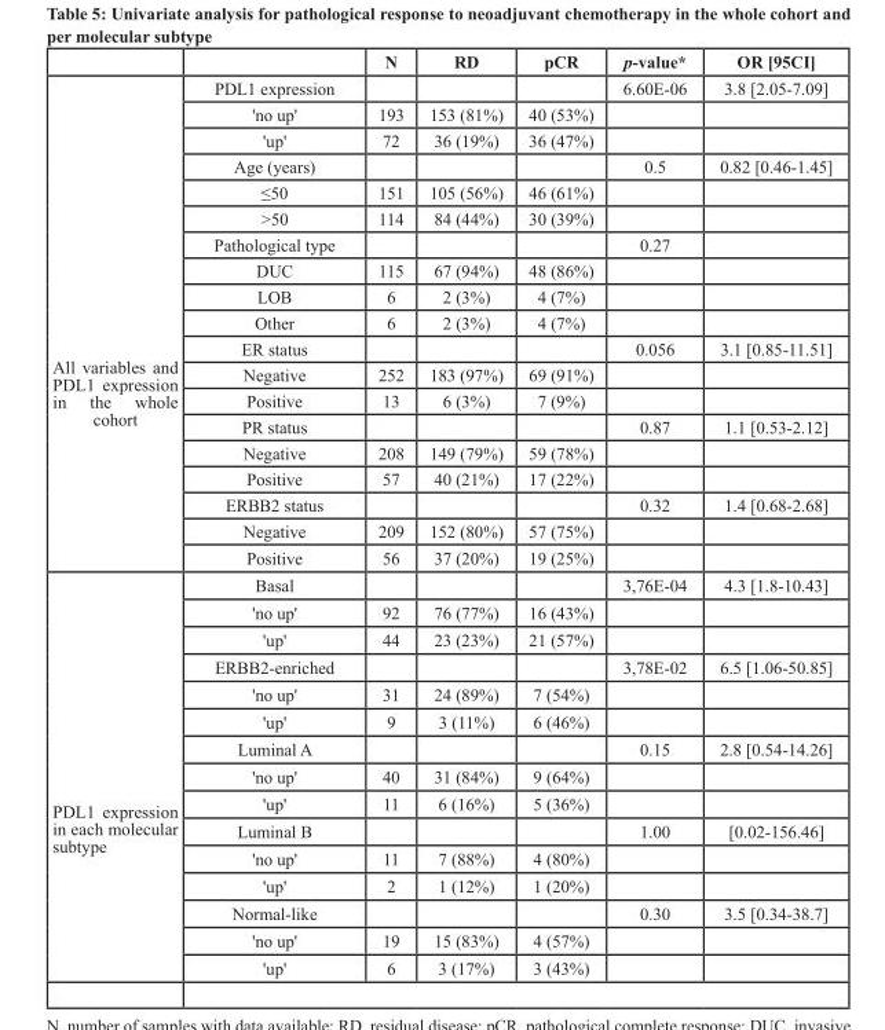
<table><thead><tr><td></td><td></td><td>N</td><td>RD</td><td>pCR</td><td>p-value*</td><td>OR [95CI]</td></tr></thead><tbody><tr><td rowspan="19">All variables and PDL1 expression in the whole cohort</td><td>PDL1 expression</td><td></td><td></td><td></td><td>6.60E-06</td><td>3.8 [2.05-7.09]</td></tr><tr><td>&#x27;no up&#x27;</td><td>193</td><td>153 (81%)</td><td>40 (53%)</td><td></td><td></td></tr><tr><td>&#x27;up&#x27;</td><td>72</td><td>36 (19%)</td><td>36 (47%)</td><td></td><td></td></tr><tr><td>Age (years)</td><td></td><td></td><td></td><td>0.5</td><td>0.82 [0.46-1.45]</td></tr><tr><td>≤50</td><td>151</td><td>105 (56%)</td><td>46 (61%)</td><td></td><td></td></tr><tr><td>&gt;50</td><td>114</td><td>84 (44%)</td><td>30 (39%)</td><td></td><td></td></tr><tr><td>Pathological type</td><td></td><td></td><td></td><td>0.27</td><td></td></tr><tr><td>DUC</td><td>115</td><td>67 (94%)</td><td>48 (86%)</td><td></td><td></td></tr><tr><td>LOB</td><td>6</td><td>2 (3%)</td><td>4 (7%)</td><td></td><td></td></tr><tr><td>Other</td><td>6</td><td>2 (3%)</td><td>4 (7%)</td><td></td><td></td></tr><tr><td>ER status</td><td></td><td></td><td></td><td>0.056</td><td>3.1 [0.85-11.51]</td></tr><tr><td>Negative</td><td>252</td><td>183 (97%)</td><td>69 (91%)</td><td></td><td></td></tr><tr><td>Positive</td><td>13</td><td>6 (3%)</td><td>7 (9%)</td><td></td><td></td></tr><tr><td>PR status</td><td></td><td></td><td></td><td>0.87</td><td>1.1 [0.53-2.12]</td></tr><tr><td>Negative</td><td>208</td><td>149 (79%)</td><td>59 (78%)</td><td></td><td></td></tr><tr><td>Positive</td><td>57</td><td>40 (21%)</td><td>17 (22%)</td><td></td><td></td></tr><tr><td>ERBB2 status</td><td></td><td></td><td></td><td>0.32</td><td>1.4 [0.68-2.68]</td></tr><tr><td>Negative</td><td>209</td><td>152 (80%)</td><td>57 (75%)</td><td></td><td></td></tr><tr><td>Positive</td><td>56</td><td>37 (20%)</td><td>19 (25%)</td><td></td><td></td></tr><tr><td rowspan="15">PDL1 expression in each molecular subtype</td><td>Basal</td><td></td><td></td><td></td><td>3,76E-04</td><td>4.3 [1.8-10.43]</td></tr><tr><td>&#x27;no up&#x27;</td><td>92</td><td>76 (77%)</td><td>16 (43%)</td><td></td><td></td></tr><tr><td>&#x27;up&#x27;</td><td>44</td><td>23 (23%)</td><td>21 (57%)</td><td></td><td></td></tr><tr><td>ERBB2-enriched</td><td></td><td></td><td></td><td>3,78E-02</td><td>6.5 [1.06-50.85]</td></tr><tr><td>&#x27;no up&#x27;</td><td>31</td><td>24 (89%)</td><td>7 (54%)</td><td></td><td></td></tr><tr><td>&#x27;up&#x27;</td><td>9</td><td>3 (11%)</td><td>6 (46%)</td><td></td><td></td></tr><tr><td>Luminal A</td><td></td><td></td><td></td><td>0.15</td><td>2.8 [0.54-14.26]</td></tr><tr><td>&#x27;no up&#x27;</td><td>40</td><td>31 (84%)</td><td>9 (64%)</td><td></td><td></td></tr><tr><td>&#x27;up&#x27;</td><td>11</td><td>6 (16%)</td><td>5 (36%)</td><td></td><td></td></tr><tr><td>Luminal B</td><td></td><td></td><td></td><td>1.00</td><td>[0.02-156.46]</td></tr><tr><td>&#x27;no up&#x27;</td><td>11</td><td>7 (88%)</td><td>4 (80%)</td><td></td><td></td></tr><tr><td>&#x27;up&#x27;</td><td>2</td><td>1 (12%)</td><td>1 (20%)</td><td></td><td></td></tr><tr><td>Normal-like</td><td></td><td></td><td></td><td>0.30</td><td>3.5 [0.34-38.7]</td></tr><tr><td>&#x27;no up&#x27;</td><td>19</td><td>15 (83%)</td><td>4 (57%)</td><td></td><td></td></tr><tr><td>&#x27;up&#x27;</td><td>6</td><td>3 (17%)</td><td>3 (43%)</td><td></td><td></td></tr></tbody></table>